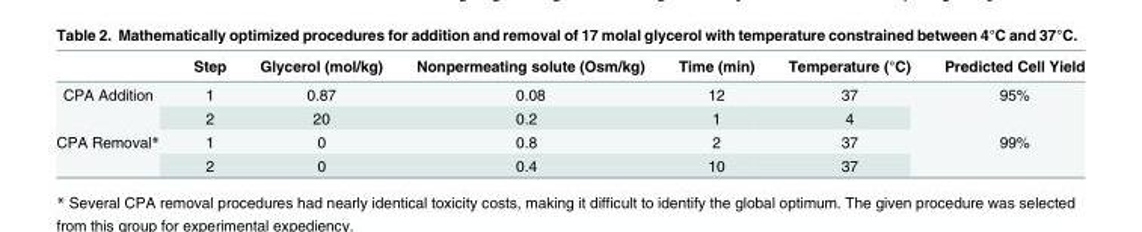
<table><thead><tr><td></td><td>Step</td><td>Glycerol (mol/kg)</td><td>Nonpermeating solute (Osm/kg)</td><td>Time (min)</td><td>Temperature (°C)</td><td>Predicted Cell Yield</td></tr></thead><tbody><tr><td rowspan="2">CPA Addition</td><td>1</td><td>0.87</td><td>0.08</td><td>12</td><td>37</td><td rowspan="2">95%</td></tr><tr><td>2</td><td>20</td><td>0.2</td><td>1</td><td>4</td></tr><tr><td rowspan="2">CPA Removal*</td><td>1</td><td>0</td><td>0.8</td><td>2</td><td>37</td><td rowspan="2">99%</td></tr><tr><td>2</td><td>0</td><td>0.4</td><td>10</td><td>37</td></tr></tbody></table>